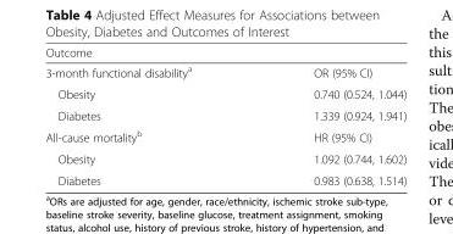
<table><thead><tr><td colspan="2">Outcome</td></tr><tr><td>3-month functional disability<sup>a</sup></td><td>OR (95% CI)</td></tr></thead><tbody><tr><td>Obesity</td><td>0.740 (0.524, 1.044)</td></tr><tr><td>Diabetes</td><td>1.339 (0.924, 1.941)</td></tr><tr><td>All-cause mortality<sup>b</sup></td><td>HR (95% CI)</td></tr><tr><td>Obesity</td><td>1.092 (0.744, 1.602)</td></tr><tr><td>Diabetes</td><td>0.983 (0.638, 1.514)</td></tr></tbody></table>